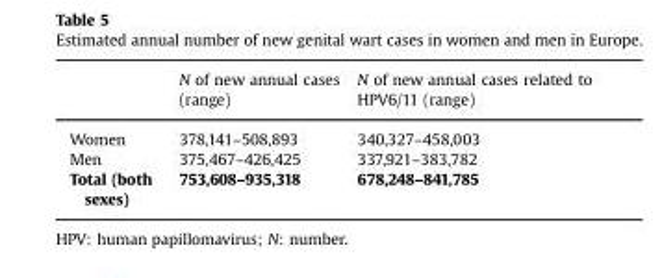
<table><thead><tr><td></td><td>N of new annual cases (range)</td><td>N of new annual cases related to HPV6/11 (range)</td></tr></thead><tbody><tr><td>Women</td><td>378,141–508,893</td><td>340,327–458,003</td></tr><tr><td>Men</td><td>375,467–426,425</td><td>337,921–383,782</td></tr><tr><td>Total (both sexes)</td><td>753,608–935,318</td><td>678,248–841,785</td></tr></tbody></table>